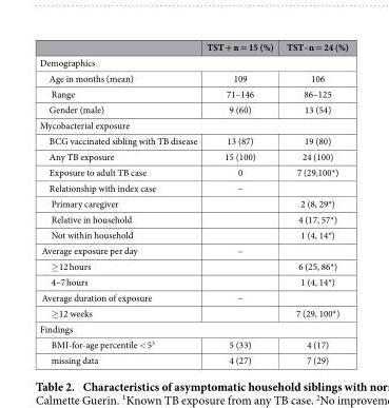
<table><thead><tr><td></td><td>TST + n = 15 (%)</td><td>TST–n = 24 (%)</td></tr></thead><tbody><tr><td colspan="3">Demographics</td></tr><tr><td>Age in months (mean)</td><td>109</td><td>106</td></tr><tr><td>Range</td><td>71–146</td><td>86–125</td></tr><tr><td>Gender (male)</td><td>9 (60)</td><td>13 (54)</td></tr><tr><td colspan="3">Mycobacterial exposure</td></tr><tr><td>BCG vaccinated sibling with TB disease</td><td>13 (87)</td><td>19 (80)</td></tr><tr><td>Any TB exposure</td><td>15 (100)</td><td>24 (100)</td></tr><tr><td>Exposure to adult TB case</td><td>0</td><td>7 (29,100*)</td></tr><tr><td>Relationship with index case</td><td>–</td><td></td></tr><tr><td>Primary caregiver</td><td></td><td>2 (8, 29*)</td></tr><tr><td>Relative in household</td><td></td><td>4 (17, 57*)</td></tr><tr><td>Not within household</td><td></td><td>1 (4, 14*)</td></tr><tr><td>Average exposure per day</td><td>–</td><td></td></tr><tr><td>≥ 12 hours</td><td></td><td>6 (25, 86*)</td></tr><tr><td>4–7 hours</td><td></td><td>1 (4, 14*)</td></tr><tr><td>Average duration of exposure</td><td>–</td><td></td></tr><tr><td>≥ 12 weeks</td><td></td><td>7 (29, 100*)</td></tr><tr><td colspan="3">Findings</td></tr><tr><td>BMI-for-age percentile &lt; 5<sup>3</sup></td><td>5 (33)</td><td>4 (17)</td></tr><tr><td>missing data</td><td>4 (27)</td><td>7 (29)</td></tr></tbody></table>